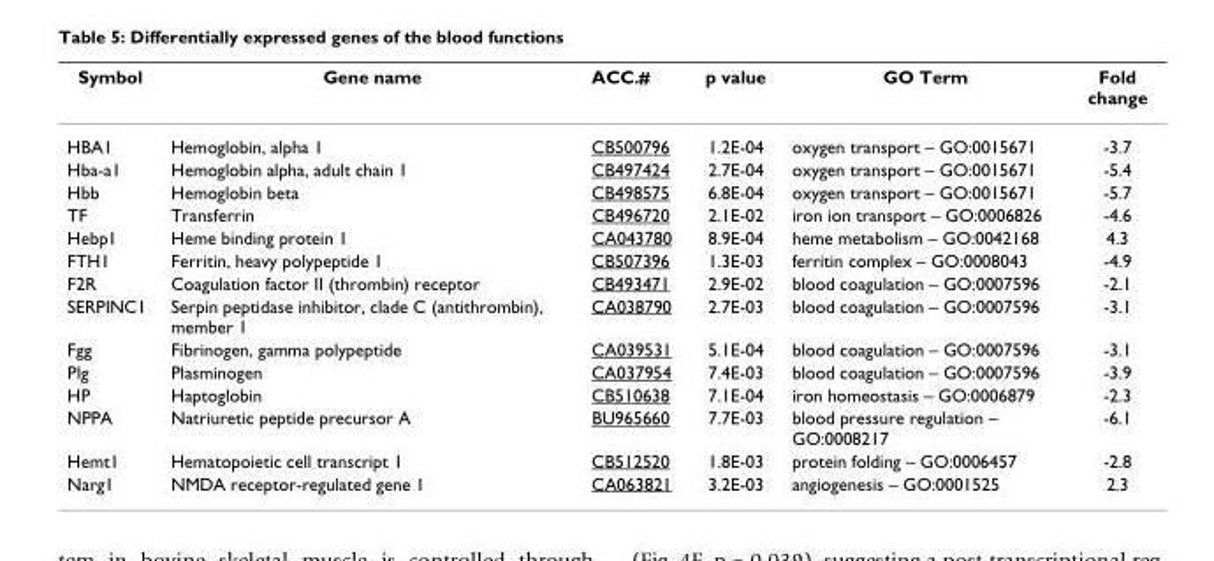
<table><thead><tr><td>Symbol</td><td>Gene name</td><td>ACC.#</td><td>p value</td><td>GO Term</td><td>Fold change</td></tr></thead><tbody><tr><td>HBA1</td><td>Hemoglobin, alpha 1</td><td>CB500796</td><td>1.2E-04</td><td>oxygen transport – GO:0015671</td><td>-3.7</td></tr><tr><td>Hba-a1</td><td>Hemoglobin alpha, adult chain 1</td><td>CB497424</td><td>2.7E-04</td><td>oxygen transport – GO:0015671</td><td>-5.4</td></tr><tr><td>Hbb</td><td>Hemoglobin beta</td><td>CB498575</td><td>6.8E-04</td><td>oxygen transport – GO:0015671</td><td>-5.7</td></tr><tr><td>TF</td><td>Transferrin</td><td>CB496720</td><td>2.1E-02</td><td>iron ion transport – GO:0006826</td><td>-4.6</td></tr><tr><td>Hebp1</td><td>Heme binding protein 1</td><td>CA043780</td><td>8.9E-04</td><td>heme metabolism – GO:0042168</td><td>4.3</td></tr><tr><td>FTH1</td><td>Ferritin, heavy polypeptide 1</td><td>CB507396</td><td>1.3E-03</td><td>ferritin complex – GO:0008043</td><td>-4.9</td></tr><tr><td>F2R</td><td>Coagulation factor II (thrombin) receptor</td><td>CB493471</td><td>2.9E-02</td><td>blood coagulation – GO:0007596</td><td>-2.1</td></tr><tr><td>SERPINC1</td><td>Serpin peptidase inhibitor, clade C (antithrombin), member 1</td><td>CA038790</td><td>2.7E-03</td><td>blood coagulation – GO:0007596</td><td>-3.1</td></tr><tr><td>Fgg</td><td>Fibrinogen, gamma polypeptide</td><td>CA039531</td><td>5.1E-04</td><td>blood coagulation – GO:0007596</td><td>-3.1</td></tr><tr><td>Plg</td><td>Plasminogen</td><td>CA037954</td><td>7.4E-03</td><td>blood coagulation – GO:0007596</td><td>-3.9</td></tr><tr><td>HP</td><td>Haptoglobin</td><td>CB510638</td><td>7.1E-04</td><td>iron homeostasis – GO:0006879</td><td>-2.3</td></tr><tr><td>NPPA</td><td>Natriuretic peptide precursor A</td><td>BU965660</td><td>7.7E-03</td><td>blood pressure regulation – GO:0008217</td><td>-6.1</td></tr><tr><td>Hemt1</td><td>Hematopoietic cell transcript 1</td><td>CB512520</td><td>1.8E-03</td><td>protein folding – GO:0006457</td><td>-2.8</td></tr><tr><td>Narg1</td><td>NMDA receptor-regulated gene 1</td><td>CA063821</td><td>3.2E-03</td><td>angiogenesis – GO:0001525</td><td>2.3</td></tr></tbody></table>